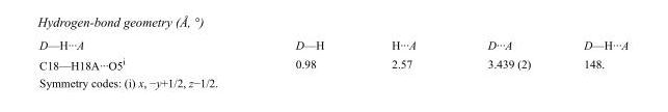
<table><tbody><tr><td>D—H···A</td><td>D—H</td><td>H···A</td><td>D···A</td><td>D—H···A</td></tr><tr><td>C18—H18A···O5<sup>i</sup></td><td>0.98</td><td>2.57</td><td>3.439 (2)</td><td>148.</td></tr></tbody></table>